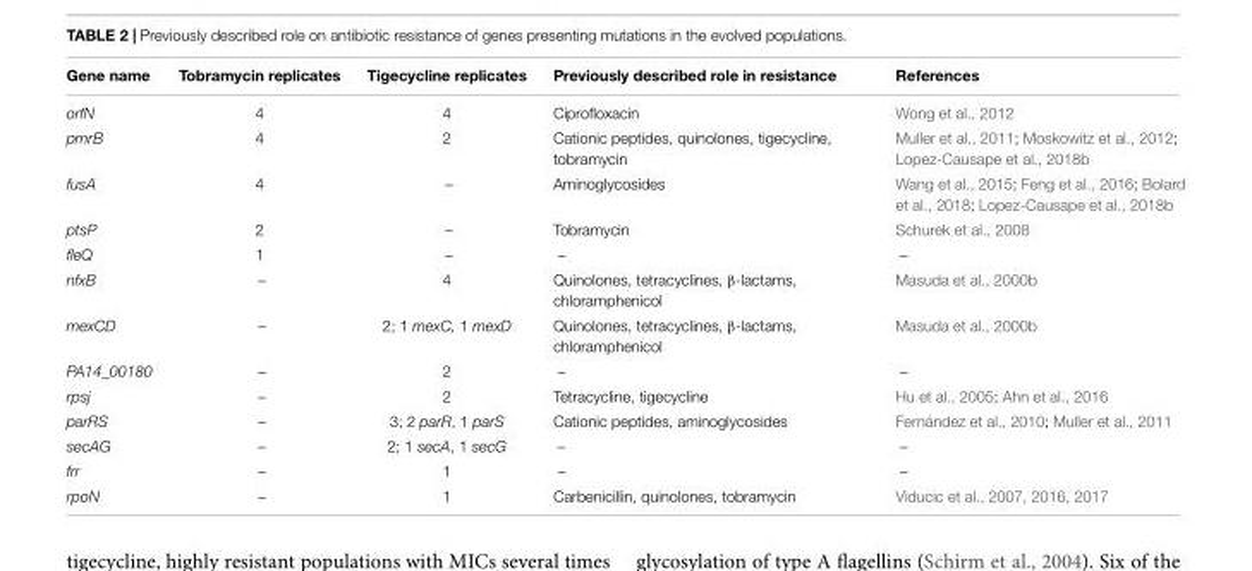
<table><thead><tr><td>Gene name</td><td>Tobramycin replicates</td><td>Tigecycline replicates</td><td>Previously described role in resistance</td><td>References</td></tr></thead><tbody><tr><td>orfN</td><td>4</td><td>4</td><td>Ciprofloxacin</td><td>Wong et al., 2012</td></tr><tr><td>pmrB</td><td>4</td><td>2</td><td>Cationic peptides, quinolones, tigecycline, tobramycin</td><td>Muller et al., 2011; Moskowitz et al., 2012; Lopez-Causape et al., 2018b</td></tr><tr><td>fusA</td><td>4</td><td>–</td><td>Aminoglycosides</td><td>Wang et al., 2015; Feng et al., 2016; Bolard et al., 2018; Lopez-Causape et al., 2018b</td></tr><tr><td>ptsP</td><td>2</td><td>–</td><td>Tobramycin</td><td>Schurek et al., 2008</td></tr><tr><td>fleQ</td><td>1</td><td>–</td><td>–</td><td>–</td></tr><tr><td>nfxB</td><td>–</td><td>4</td><td>Quinolones, tetracyclines, β-lactams, chloramphenicol</td><td>Masuda et al., 2000b</td></tr><tr><td>mexCD</td><td>–</td><td>2; 1 mexC, 1 mexD</td><td>Quinolones, tetracyclines, β-lactams, chloramphenicol</td><td>Masuda et al., 2000b</td></tr><tr><td>PA14_00180</td><td>–</td><td>2</td><td>–</td><td>–</td></tr><tr><td>rpsj</td><td>–</td><td>2</td><td>Tetracycline, tigecycline</td><td>Hu et al., 2005; Ahn et al., 2016</td></tr><tr><td>parRS</td><td>–</td><td>3; 2 parR, 1 parS</td><td>Cationic peptides, aminoglycosides</td><td>Fernández et al., 2010; Muller et al., 2011</td></tr><tr><td>secAG</td><td>–</td><td>2; 1 secA, 1 secG</td><td>–</td><td>–</td></tr><tr><td>frr</td><td>–</td><td>1</td><td>–</td><td>–</td></tr><tr><td>rpoN</td><td>–</td><td>1</td><td>Carbenicillin, quinolones, tobramycin</td><td>Viducic et al., 2007, 2016, 2017</td></tr></tbody></table>